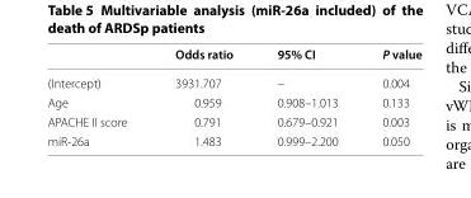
<table><thead><tr><td></td><td>Odds ratio</td><td>95% CI</td><td>P value</td></tr></thead><tbody><tr><td>(Intercept)</td><td>3931.707</td><td>–</td><td>0.004</td></tr><tr><td>Age</td><td>0.959</td><td>0.908–1.013</td><td>0.133</td></tr><tr><td>APACHE II score</td><td>0.791</td><td>0.679–0.921</td><td>0.003</td></tr><tr><td>miR‑26a</td><td>1.483</td><td>0.999–2.200</td><td>0.050</td></tr></tbody></table>